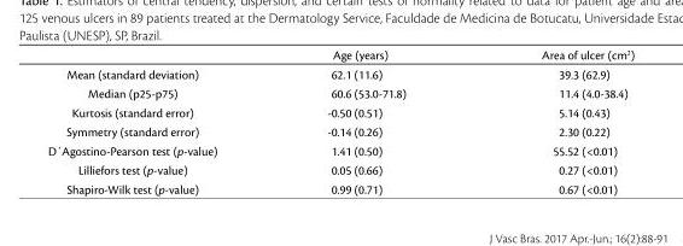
<table><thead><tr><td></td><td>Age (years)</td><td>Area of ulcer (cm2)</td></tr></thead><tbody><tr><td>Mean (standard deviation)</td><td>62.1 (11.6)</td><td>39.3 (62.9)</td></tr><tr><td>Median (p25-p75)</td><td>60.6 (53.0-71.8)</td><td>11.4 (4.0-38.4)</td></tr><tr><td>Kurtosis (standard error)</td><td>-0.50 (0.51)</td><td>5.14 (0.43)</td></tr><tr><td>Symmetry (standard error)</td><td>-0.14 (0.26)</td><td>2.30 (0.22)</td></tr><tr><td>D´Agostino-Pearson test (p-value)</td><td>1.41 (0.50)</td><td>55.52 (&lt;0.01)</td></tr><tr><td>Lilliefors test (p-value)</td><td>0.05 (0.66)</td><td>0.27 (&lt;0.01)</td></tr><tr><td>Shapiro-Wilk test (p-value)</td><td>0.99 (0.71)</td><td>0.67 (&lt;0.01)</td></tr></tbody></table>